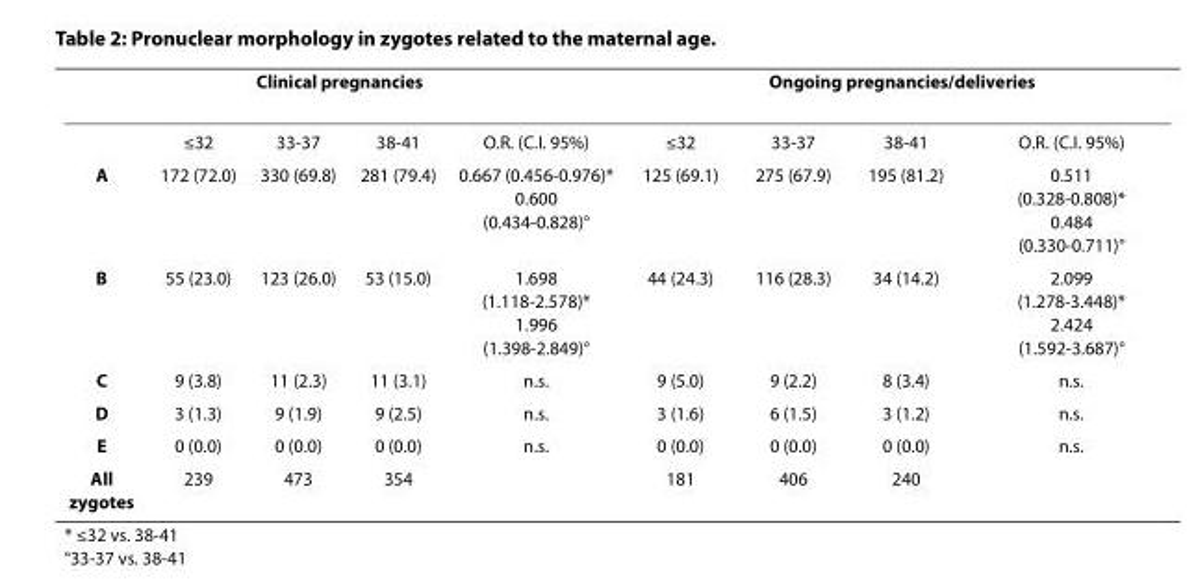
<table><thead><tr><td colspan="5">Clinical pregnancies</td><td colspan="4">Ongoing pregnancies/deliveries</td></tr><tr><td></td><td>≤32</td><td>33-37</td><td>38-41</td><td>O.R. (C.I. 95%)</td><td>≤32</td><td>33-37</td><td>38-41</td><td>O.R. (C.I. 95%)</td></tr></thead><tbody><tr><td>A</td><td>172 (72.0)</td><td>330 (69.8)</td><td>281 (79.4)</td><td>0.667 (0.456-0.976)* 0.600 (0.434-0.828)°</td><td>125 (69.1)</td><td>275 (67.9)</td><td>195 (81.2)</td><td>0.511 (0.328-0.808)* 0.484 (0.330-0.711)°</td></tr><tr><td>B</td><td>55 (23.0)</td><td>123 (26.0)</td><td>53 (15.0)</td><td>1.698 (1.118-2.578)* 1.996 (1.398-2.849)°</td><td>44 (24.3)</td><td>116 (28.3)</td><td>34 (14.2)</td><td>2.099 (1.278-3.448)* 2.424 (1.592-3.687)°</td></tr><tr><td>C</td><td>9 (3.8)</td><td>11 (2.3)</td><td>11 (3.1)</td><td>n.s.</td><td>9 (5.0)</td><td>9 (2.2)</td><td>8 (3.4)</td><td>n.s.</td></tr><tr><td>D</td><td>3 (1.3)</td><td>9 (1.9)</td><td>9 (2.5)</td><td>n.s.</td><td>3 (1.6)</td><td>6 (1.5)</td><td>3 (1.2)</td><td>n.s.</td></tr><tr><td>E</td><td>0 (0.0)</td><td>0 (0.0)</td><td>0 (0.0)</td><td>n.s.</td><td>0 (0.0)</td><td>0 (0.0)</td><td>0 (0.0)</td><td>n.s.</td></tr><tr><td>All zygotes</td><td>239</td><td>473</td><td>354</td><td></td><td>181</td><td>406</td><td>240</td><td></td></tr></tbody></table>